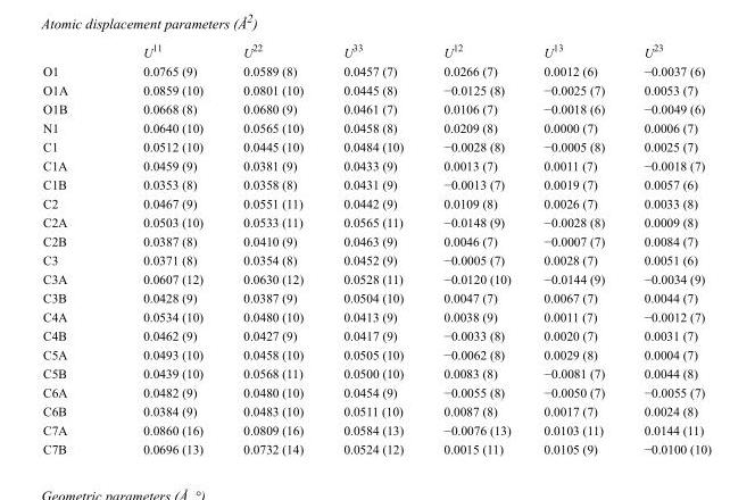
<table><thead><tr><td></td><td>U<sup>11</sup></td><td>U<sup>22</sup></td><td>U<sup>33</sup></td><td>U<sup>12</sup></td><td>U<sup>13</sup></td><td>U<sup>23</sup></td></tr></thead><tbody><tr><td>O1</td><td>0.0765 (9)</td><td>0.0589 (8)</td><td>0.0457 (7)</td><td>0.0266 (7)</td><td>0.0012 (6)</td><td>−0.0037 (6)</td></tr><tr><td>O1A</td><td>0.0859 (10)</td><td>0.0801 (10)</td><td>0.0445 (8)</td><td>−0.0125 (8)</td><td>−0.0025 (7)</td><td>0.0053 (7)</td></tr><tr><td>O1B</td><td>0.0668 (8)</td><td>0.0680 (9)</td><td>0.0461 (7)</td><td>0.0106 (7)</td><td>−0.0018 (6)</td><td>−0.0049 (6)</td></tr><tr><td>N1</td><td>0.0640 (10)</td><td>0.0565 (10)</td><td>0.0458 (8)</td><td>0.0209 (8)</td><td>0.0000 (7)</td><td>0.0006 (7)</td></tr><tr><td>C1</td><td>0.0512 (10)</td><td>0.0445 (10)</td><td>0.0484 (10)</td><td>−0.0028 (8)</td><td>−0.0005 (8)</td><td>0.0025 (7)</td></tr><tr><td>C1A</td><td>0.0459 (9)</td><td>0.0381 (9)</td><td>0.0433 (9)</td><td>0.0013 (7)</td><td>0.0011 (7)</td><td>−0.0018 (7)</td></tr><tr><td>C1B</td><td>0.0353 (8)</td><td>0.0358 (8)</td><td>0.0431 (9)</td><td>−0.0013 (7)</td><td>0.0019 (7)</td><td>0.0057 (6)</td></tr><tr><td>C2</td><td>0.0467 (9)</td><td>0.0551 (11)</td><td>0.0442 (9)</td><td>0.0109 (8)</td><td>0.0026 (7)</td><td>0.0033 (8)</td></tr><tr><td>C2A</td><td>0.0503 (10)</td><td>0.0533 (11)</td><td>0.0565 (11)</td><td>−0.0148 (9)</td><td>−0.0028 (8)</td><td>0.0009 (8)</td></tr><tr><td>C2B</td><td>0.0387 (8)</td><td>0.0410 (9)</td><td>0.0463 (9)</td><td>0.0046 (7)</td><td>−0.0007 (7)</td><td>0.0084 (7)</td></tr><tr><td>C3</td><td>0.0371 (8)</td><td>0.0354 (8)</td><td>0.0452 (9)</td><td>−0.0005 (7)</td><td>0.0028 (7)</td><td>0.0051 (6)</td></tr><tr><td>C3A</td><td>0.0607 (12)</td><td>0.0630 (12)</td><td>0.0528 (11)</td><td>−0.0120 (10)</td><td>−0.0144 (9)</td><td>−0.0034 (9)</td></tr><tr><td>C3B</td><td>0.0428 (9)</td><td>0.0387 (9)</td><td>0.0504 (10)</td><td>0.0047 (7)</td><td>0.0067 (7)</td><td>0.0044 (7)</td></tr><tr><td>C4A</td><td>0.0534 (10)</td><td>0.0480 (10)</td><td>0.0413 (9)</td><td>0.0038 (9)</td><td>0.0011 (7)</td><td>−0.0012 (7)</td></tr><tr><td>C4B</td><td>0.0462 (9)</td><td>0.0427 (9)</td><td>0.0417 (9)</td><td>−0.0033 (8)</td><td>0.0020 (7)</td><td>0.0031 (7)</td></tr><tr><td>C5A</td><td>0.0493 (10)</td><td>0.0458 (10)</td><td>0.0505 (10)</td><td>−0.0062 (8)</td><td>0.0029 (8)</td><td>0.0004 (7)</td></tr><tr><td>C5B</td><td>0.0439 (10)</td><td>0.0568 (11)</td><td>0.0500 (10)</td><td>0.0083 (8)</td><td>−0.0081 (7)</td><td>0.0044 (8)</td></tr><tr><td>C6A</td><td>0.0482 (9)</td><td>0.0480 (10)</td><td>0.0454 (9)</td><td>−0.0055 (8)</td><td>−0.0050 (7)</td><td>−0.0055 (7)</td></tr><tr><td>C6B</td><td>0.0384 (9)</td><td>0.0483 (10)</td><td>0.0511 (10)</td><td>0.0087 (8)</td><td>0.0017 (7)</td><td>0.0024 (8)</td></tr><tr><td>C7A</td><td>0.0860 (16)</td><td>0.0809 (16)</td><td>0.0584 (13)</td><td>−0.0076 (13)</td><td>0.0103 (11)</td><td>0.0144 (11)</td></tr><tr><td>C7B</td><td>0.0696 (13)</td><td>0.0732 (14)</td><td>0.0524 (12)</td><td>0.0015 (11)</td><td>0.0105 (9)</td><td>−0.0100 (10)</td></tr></tbody></table>